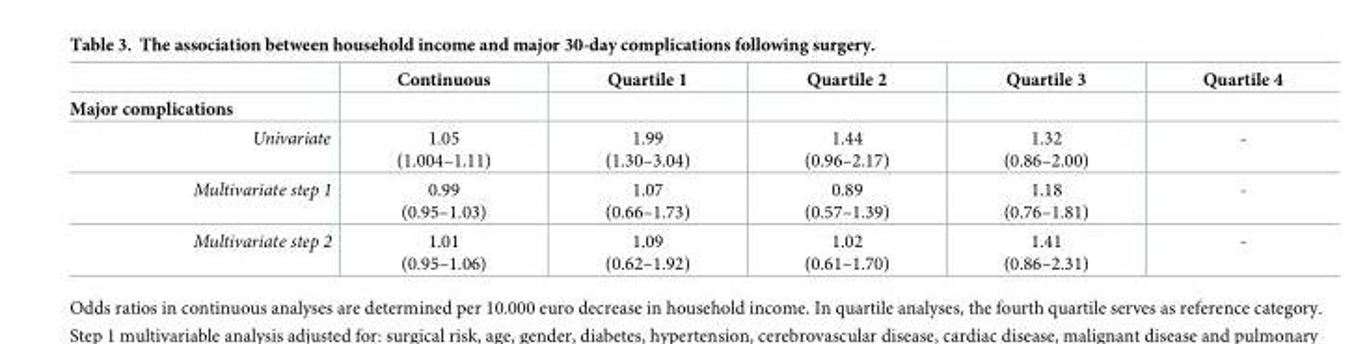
<table><thead><tr><td rowspan="2">Major complications</td><td rowspan="2">Continuous</td><td rowspan="2">Quartile 1</td><td rowspan="2">Quartile 2</td><td rowspan="2">Quartile 3</td><td rowspan="2">Quartile 4</td></tr><tr></tr></thead><tbody><tr><td>Univariate</td><td>1.05 (1.004–1.11)</td><td>1.99 (1.30–3.04)</td><td>1.44 (0.96–2.17)</td><td>1.32 (0.86–2.00)</td><td>-</td></tr><tr><td>Multivariate step 1</td><td>0.99 (0.95–1.03)</td><td>1.07 (0.66–1.73)</td><td>0.89 (0.57–1.39)</td><td>1.18 (0.76–1.81)</td><td>-</td></tr><tr><td>Multivariate step 2</td><td>1.01 (0.95–1.06)</td><td>1.09 (0.62–1.92)</td><td>1.02 (0.61–1.70)</td><td>1.41 (0.86–2.31)</td><td>-</td></tr></tbody></table>